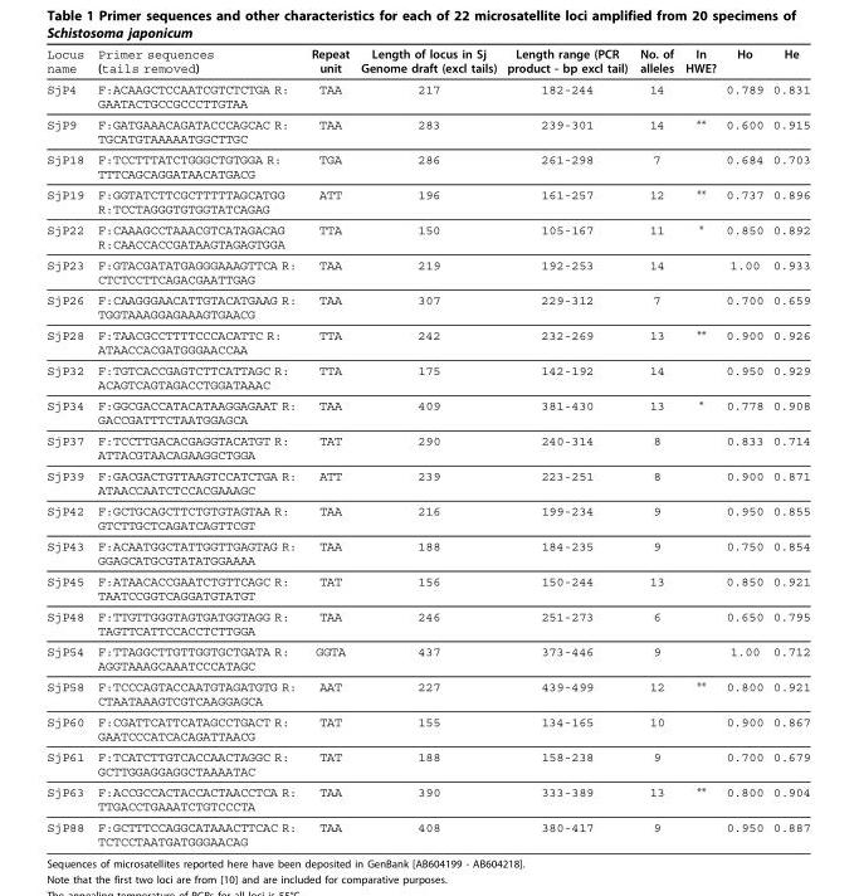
<table><thead><tr><td>Locus name</td><td>Primer sequences (tails removed)</td><td>Repeat unit</td><td>Length of locus in Sj Genome draft (excl tails)</td><td>Length range (PCR product - bp excl tail)</td><td>No. of alleles</td><td>In HWE?</td><td>Ho</td><td>He</td></tr></thead><tbody><tr><td>SjP4</td><td>F:ACAAGCTCCAATCGTCTCTGA R: GAATACTGCCGCCCTTGTAA</td><td>TAA</td><td>217</td><td>182-244</td><td>14</td><td></td><td>0.789</td><td>0.831</td></tr><tr><td>SjP9</td><td>F:GATGAAACAGATACCCAGCAC R: TGCATGTAAAAATGGCTTGC</td><td>TAA</td><td>283</td><td>239-301</td><td>14</td><td>**</td><td>0.600</td><td>0.915</td></tr><tr><td>SjP18</td><td>F:TCCTTTATCTGGGCTGTGGA R: TTTCAGCAGGATAACATGACG</td><td>TGA</td><td>286</td><td>261-298</td><td>7</td><td></td><td>0.684</td><td>0.703</td></tr><tr><td>SjP19</td><td>F:GGTATCTTCGCTTTTTAGCATGG R:TCCTAGGGTGTGGTATCAGAG</td><td>ATT</td><td>196</td><td>161-257</td><td>12</td><td>**</td><td>0.737</td><td>0.896</td></tr><tr><td>SjP22</td><td>F:CAAAGCCTAAACGTCATAGACAG R:CAACCACCGATAAGTAGAGTGGA</td><td>TTA</td><td>150</td><td>105-167</td><td>11</td><td>*</td><td>0.850</td><td>0.892</td></tr><tr><td>SjP23</td><td>F:GTACGATATGAGGGAAAGTTCA R: CTCTCCTTCAGACGAATTGAG</td><td>TAA</td><td>219</td><td>192-253</td><td>14</td><td></td><td>1.00</td><td>0.933</td></tr><tr><td>SjP26</td><td>F:CAAGGGAACATTGTACATGAAG R: TGGTAAAGGAGAAAGTGAACG</td><td>TAA</td><td>307</td><td>229-312</td><td>7</td><td></td><td>0.700</td><td>0.659</td></tr><tr><td>SjP28</td><td>F:TAACGCCTTTTCCCACATTC R: ATAACCACGATGGGAACCAA</td><td>TTA</td><td>242</td><td>232-269</td><td>13</td><td>**</td><td>0.900</td><td>0.926</td></tr><tr><td>SjP32</td><td>F:TGTCACCGAGTCTTCATTAGC R: ACAGTCAGTAGACCTGGATAAAC</td><td>TTA</td><td>175</td><td>142-192</td><td>14</td><td></td><td>0.950</td><td>0.929</td></tr><tr><td>SjP34</td><td>F:GGCGACCATACATAAGGAGAAT R: GACCGATTTCTAATGGAGCA</td><td>TAA</td><td>409</td><td>381-430</td><td>13</td><td>*</td><td>0.778</td><td>0.908</td></tr><tr><td>SjP37</td><td>F:TCCTTGACACGAGGTACATGT R: ATTACGTAACAGAAGGCTGGA</td><td>TAT</td><td>290</td><td>240-314</td><td>8</td><td></td><td>0.833</td><td>0.714</td></tr><tr><td>SjP39</td><td>F:GACGACTGTTAAGTCCATCTGA R: ATAACCAATCTCCACGAAAGC</td><td>ATT</td><td>239</td><td>223-251</td><td>8</td><td></td><td>0.900</td><td>0.871</td></tr><tr><td>SjP42</td><td>F:GCTGCAGCTTCTGTGTAGTAA R: GTCTTGCTCAGATCAGTTCGT</td><td>TAA</td><td>216</td><td>199-234</td><td>9</td><td></td><td>0.950</td><td>0.855</td></tr><tr><td>SjP43</td><td>F:ACAATGGCTATTGGTTGAGTAG R: GGAGCATGCGTATATGGAAAA</td><td>TAA</td><td>188</td><td>184-235</td><td>9</td><td></td><td>0.750</td><td>0.854</td></tr><tr><td>SjP45</td><td>F:ATAACACCGAATCTGTTCAGC R: TAATCCGGTCAGGATGTATGT</td><td>TAT</td><td>156</td><td>150-244</td><td>13</td><td></td><td>0.850</td><td>0.921</td></tr><tr><td>SjP48</td><td>F:TTGTTGGGTAGTGATGGTAGG R: TAGTTCATTCCACCTCTTGGA</td><td>TAA</td><td>246</td><td>251-273</td><td>6</td><td></td><td>0.650</td><td>0.795</td></tr><tr><td>SjP54</td><td>F:TTAGGCTTGTTGGTGCTGATA R: AGGTAAAGCAAATCCCATAGC</td><td>GGTA</td><td>437</td><td>373-446</td><td>9</td><td></td><td>1.00</td><td>0.712</td></tr><tr><td>SjP58</td><td>F:TCCCAGTACCAATGTAGATGTG R: CTAATAAAGTCGTCAAGGAGCA</td><td>AAT</td><td>227</td><td>439-499</td><td>12</td><td>**</td><td>0.800</td><td>0.921</td></tr><tr><td>SjP60</td><td>F:CGATTCATTCATAGCCTGACT R: GAATCCCATCACAGATTAACG</td><td>TAT</td><td>155</td><td>134-165</td><td>10</td><td></td><td>0.900</td><td>0.867</td></tr><tr><td>SjP61</td><td>F:TCATCTTGTCACCAACTAGGC R: GCTTGGAGGAGGCTAAAATAC</td><td>TAT</td><td>188</td><td>158-238</td><td>9</td><td></td><td>0.700</td><td>0.679</td></tr><tr><td>SjP63</td><td>F:ACCGCCACTACCACTAACCTCA R: TTGACCTGAAATCTGTCCCTA</td><td>TAA</td><td>390</td><td>333-389</td><td>13</td><td>**</td><td>0.800</td><td>0.904</td></tr><tr><td>SjP88</td><td>F:GCTTTCCAGGCATAAACTTCAC R: TCTCCTAATGATGGGAACAG</td><td>TAA</td><td>408</td><td>380-417</td><td>9</td><td></td><td>0.950</td><td>0.887</td></tr></tbody></table>